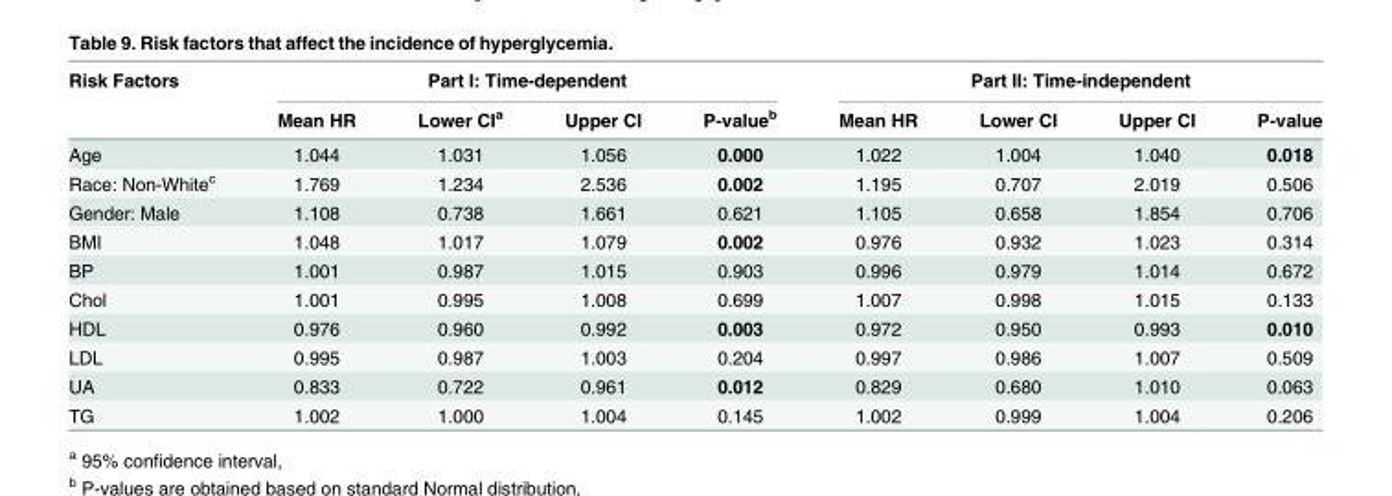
<table><thead><tr><td rowspan="2">Risk Factors</td><td colspan="4">Part I: Time-dependent</td><td colspan="4">Part II: Time-independent</td></tr><tr><td>Mean HR</td><td>Lower CI<sup>a</sup></td><td>Upper CI</td><td>P-value<sup>b</sup></td><td>Mean HR</td><td>Lower CI</td><td>Upper CI</td><td>P-value</td></tr></thead><tbody><tr><td>Age</td><td>1.044</td><td>1.031</td><td>1.056</td><td>0.000</td><td>1.022</td><td>1.004</td><td>1.040</td><td>0.018</td></tr><tr><td>Race: Non-White<sup>c</sup></td><td>1.769</td><td>1.234</td><td>2.536</td><td>0.002</td><td>1.195</td><td>0.707</td><td>2.019</td><td>0.506</td></tr><tr><td>Gender: Male</td><td>1.108</td><td>0.738</td><td>1.661</td><td>0.621</td><td>1.105</td><td>0.658</td><td>1.854</td><td>0.706</td></tr><tr><td>BMI</td><td>1.048</td><td>1.017</td><td>1.079</td><td>0.002</td><td>0.976</td><td>0.932</td><td>1.023</td><td>0.314</td></tr><tr><td>BP</td><td>1.001</td><td>0.987</td><td>1.015</td><td>0.903</td><td>0.996</td><td>0.979</td><td>1.014</td><td>0.672</td></tr><tr><td>Chol</td><td>1.001</td><td>0.995</td><td>1.008</td><td>0.699</td><td>1.007</td><td>0.998</td><td>1.015</td><td>0.133</td></tr><tr><td>HDL</td><td>0.976</td><td>0.960</td><td>0.992</td><td>0.003</td><td>0.972</td><td>0.950</td><td>0.993</td><td>0.010</td></tr><tr><td>LDL</td><td>0.995</td><td>0.987</td><td>1.003</td><td>0.204</td><td>0.997</td><td>0.986</td><td>1.007</td><td>0.509</td></tr><tr><td>UA</td><td>0.833</td><td>0.722</td><td>0.961</td><td>0.012</td><td>0.829</td><td>0.680</td><td>1.010</td><td>0.063</td></tr><tr><td>TG</td><td>1.002</td><td>1.000</td><td>1.004</td><td>0.145</td><td>1.002</td><td>0.999</td><td>1.004</td><td>0.206</td></tr></tbody></table>